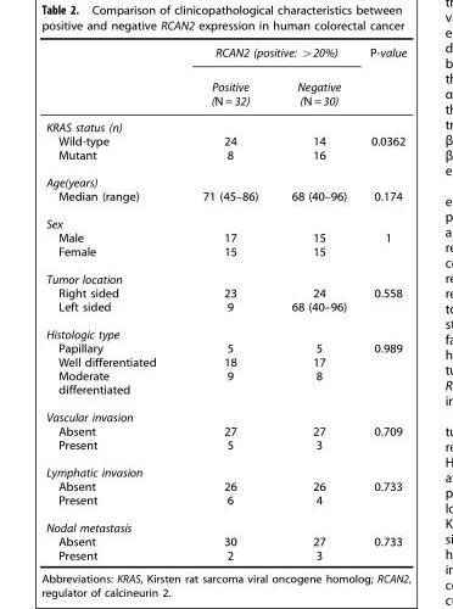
<table><thead><tr><td rowspan="2"></td><td colspan="2">RCAN2 (positive: &gt;20%)</td><td rowspan="2">P-value</td></tr><tr><td>Positive (N = 32)</td><td>Negative (N = 30)</td></tr></thead><tbody><tr><td colspan="4">KRAS status (n)</td></tr><tr><td>Wild-type</td><td>24</td><td>14</td><td>0.0362</td></tr><tr><td>Mutant</td><td>8</td><td>16</td><td></td></tr><tr><td colspan="4">Age(years)</td></tr><tr><td>Median (range)</td><td>71 (45–86)</td><td>68 (40–96)</td><td>0.174</td></tr><tr><td colspan="4">Sex</td></tr><tr><td>Male</td><td>17</td><td>15</td><td>1</td></tr><tr><td>Female</td><td>15</td><td>15</td><td></td></tr><tr><td colspan="4">Tumor location</td></tr><tr><td>Right sided</td><td>23</td><td>24</td><td>0.558</td></tr><tr><td>Left sided</td><td>9</td><td>68 (40–96)</td><td></td></tr><tr><td colspan="4">Histologic type</td></tr><tr><td>Papillary</td><td>5</td><td>5</td><td>0.989</td></tr><tr><td>Well differentiated</td><td>18</td><td>17</td><td></td></tr><tr><td>Moderate differentiated</td><td>9</td><td>8</td><td></td></tr><tr><td colspan="4">Vascular invasion</td></tr><tr><td>Absent</td><td>27</td><td>27</td><td>0.709</td></tr><tr><td>Present</td><td>5</td><td>3</td><td></td></tr><tr><td colspan="4">Lymphatic invasion</td></tr><tr><td>Absent</td><td>26</td><td>26</td><td>0.733</td></tr><tr><td>Present</td><td>6</td><td>4</td><td></td></tr><tr><td colspan="4">Nodal metastasis</td></tr><tr><td>Absent</td><td>30</td><td>27</td><td>0.733</td></tr><tr><td>Present</td><td>2</td><td>3</td><td></td></tr></tbody></table>